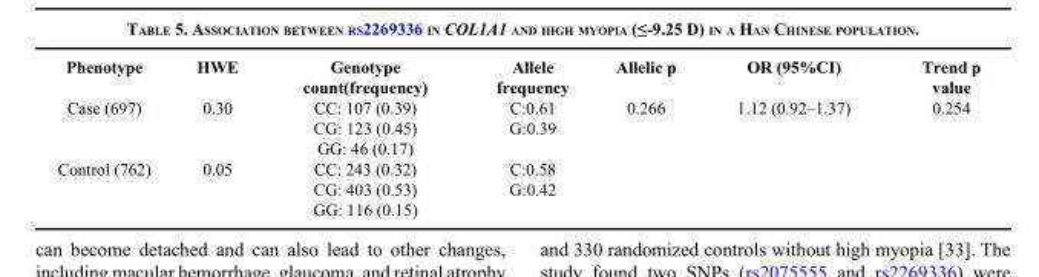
<table><thead><tr><td>Phenotype</td><td>HWE</td><td>Genotype count(frequency)</td><td>Allele frequency</td><td>Allelic p</td><td>OR (95%CI)</td><td>Trend p value</td></tr></thead><tbody><tr><td rowspan="3">Case (697)</td><td>0.30</td><td>CC: 107 (0.39)</td><td>C:0.61</td><td>0.266</td><td>1.12 (0.92–1.37)</td><td>0.254</td></tr><tr><td></td><td>CG: 123 (0.45)</td><td>G:0.39</td><td></td><td></td><td></td></tr><tr><td></td><td>GG: 46 (0.17)</td><td></td><td></td><td></td><td></td></tr><tr><td rowspan="3">Control (762)</td><td>0.05</td><td>CC: 243 (0.32)</td><td>C:0.58</td><td></td><td></td><td></td></tr><tr><td></td><td>CG: 403 (0.53)</td><td>G:0.42</td><td></td><td></td><td></td></tr><tr><td></td><td>GG: 116 (0.15)</td><td></td><td></td><td></td><td></td></tr></tbody></table>